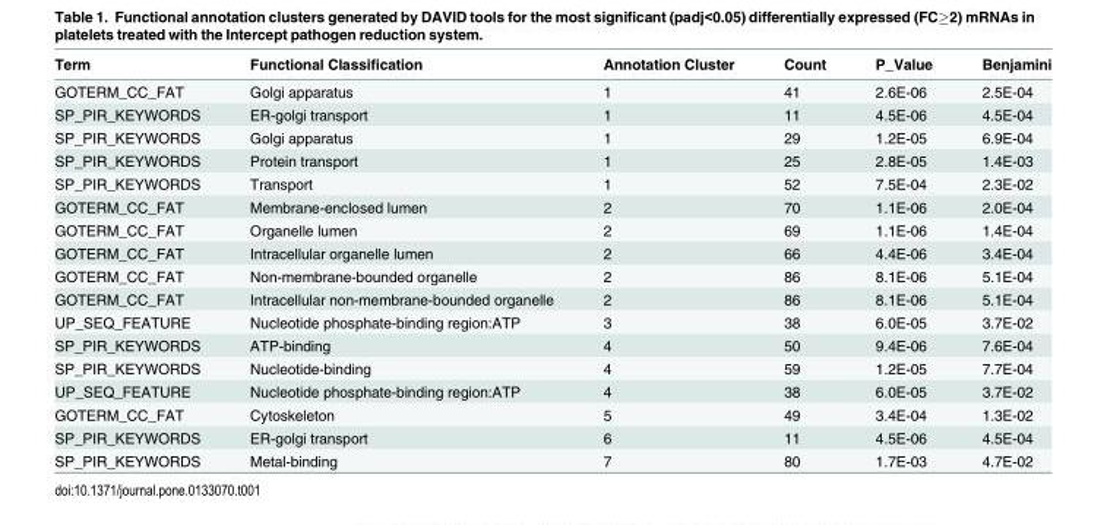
<table><thead><tr><td>Term</td><td>Functional Classification</td><td>Annotation Cluster</td><td>Count</td><td>P_Value</td><td>Benjamini</td></tr></thead><tbody><tr><td>GOTERM_CC_FAT</td><td>Golgi apparatus</td><td>1</td><td>41</td><td>2.6E-06</td><td>2.5E-04</td></tr><tr><td>SP_PIR_KEYWORDS</td><td>ER-golgi transport</td><td>1</td><td>11</td><td>4.5E-06</td><td>4.5E-04</td></tr><tr><td>SP_PIR_KEYWORDS</td><td>Golgi apparatus</td><td>1</td><td>29</td><td>1.2E-05</td><td>6.9E-04</td></tr><tr><td>SP_PIR_KEYWORDS</td><td>Protein transport</td><td>1</td><td>25</td><td>2.8E-05</td><td>1.4E-03</td></tr><tr><td>SP_PIR_KEYWORDS</td><td>Transport</td><td>1</td><td>52</td><td>7.5E-04</td><td>2.3E-02</td></tr><tr><td>GOTERM_CC_FAT</td><td>Membrane-enclosed lumen</td><td>2</td><td>70</td><td>1.1E-06</td><td>2.0E-04</td></tr><tr><td>GOTERM_CC_FAT</td><td>Organelle lumen</td><td>2</td><td>69</td><td>1.1E-06</td><td>1.4E-04</td></tr><tr><td>GOTERM_CC_FAT</td><td>Intracellular organelle lumen</td><td>2</td><td>66</td><td>4.4E-06</td><td>3.4E-04</td></tr><tr><td>GOTERM_CC_FAT</td><td>Non-membrane-bounded organelle</td><td>2</td><td>86</td><td>8.1E-06</td><td>5.1E-04</td></tr><tr><td>GOTERM_CC_FAT</td><td>Intracellular non-membrane-bounded organelle</td><td>2</td><td>86</td><td>8.1E-06</td><td>5.1E-04</td></tr><tr><td>UP_SEQ_FEATURE</td><td>Nucleotide phosphate-binding region:ATP</td><td>3</td><td>38</td><td>6.0E-05</td><td>3.7E-02</td></tr><tr><td>SP_PIR_KEYWORDS</td><td>ATP-binding</td><td>4</td><td>50</td><td>9.4E-06</td><td>7.6E-04</td></tr><tr><td>SP_PIR_KEYWORDS</td><td>Nucleotide-binding</td><td>4</td><td>59</td><td>1.2E-05</td><td>7.7E-04</td></tr><tr><td>UP_SEQ_FEATURE</td><td>Nucleotide phosphate-binding region:ATP</td><td>4</td><td>38</td><td>6.0E-05</td><td>3.7E-02</td></tr><tr><td>GOTERM_CC_FAT</td><td>Cytoskeleton</td><td>5</td><td>49</td><td>3.4E-04</td><td>1.3E-02</td></tr><tr><td>SP_PIR_KEYWORDS</td><td>ER-golgi transport</td><td>6</td><td>11</td><td>4.5E-06</td><td>4.5E-04</td></tr><tr><td>SP_PIR_KEYWORDS</td><td>Metal-binding</td><td>7</td><td>80</td><td>1.7E-03</td><td>4.7E-02</td></tr></tbody></table>